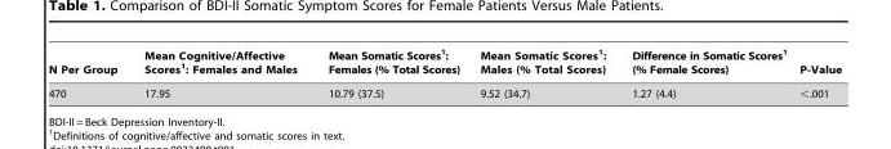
<table><thead><tr><td>N Per Group</td><td>Mean Cognitive/Affective Scores<sup>1</sup>: Females and Males</td><td>Mean Somatic Scores<sup>1</sup>: Females (% Total Scores)</td><td>Mean Somatic Scores<sup>1</sup>: Males (% Total Scores)</td><td>Difference in Somatic Scores<sup>1</sup> (% Female Scores)</td><td>P-Value</td></tr></thead><tbody><tr><td>470</td><td>17.95</td><td>10.79 (37.5)</td><td>9.52 (34.7)</td><td>1.27 (4.4)</td><td>&lt;.001</td></tr></tbody></table>